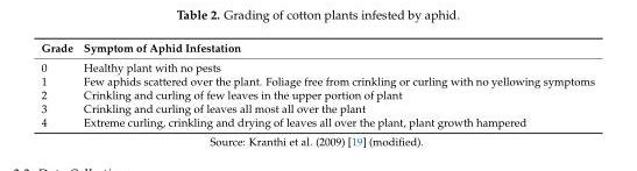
<table><thead><tr><td>Grade</td><td>Symptom of Aphid Infestation</td></tr></thead><tbody><tr><td>0</td><td>Healthy plant with no pests</td></tr><tr><td>1</td><td>Few aphids scattered over the plant. Foliage free from crinkling or curling with no yellowing symptoms</td></tr><tr><td>2</td><td>Crinkling and curling of few leaves in the upper portion of plant</td></tr><tr><td>3</td><td>Crinkling and curling of leaves all most all over the plant</td></tr><tr><td>4</td><td>Extreme curling, crinkling and drying of leaves all over the plant, plant growth hampered</td></tr></tbody></table>